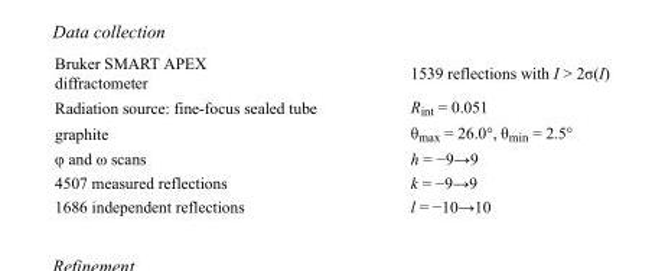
<table><tbody><tr><td>Bruker SMART APEX diffractometer</td><td>1539 reflections with I &gt; 2σ(I)</td></tr><tr><td>Radiation source: fine-focus sealed tube</td><td>R<sub>int</sub> = 0.051</td></tr><tr><td>graphite</td><td>θ<sub>max</sub> = 26.0°, θ<sub>min</sub> = 2.5°</td></tr><tr><td>φ and ω scans</td><td>h = −9→9</td></tr><tr><td>4507 measured reflections</td><td>k = −9→9</td></tr><tr><td>1686 independent reflections</td><td>l = −10→10</td></tr></tbody></table>